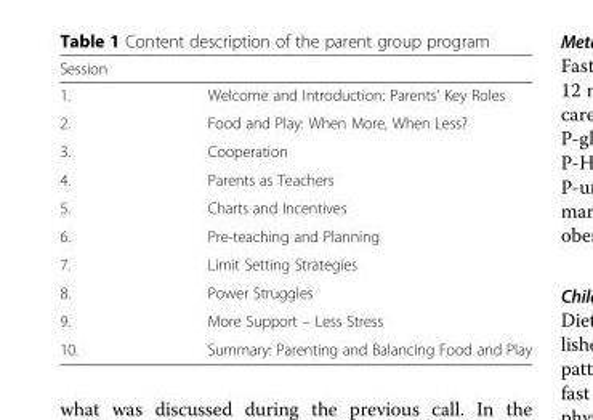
<table><thead><tr><td>Session</td><td></td></tr></thead><tbody><tr><td>1.</td><td>Welcome and Introduction: Parents’ Key Roles</td></tr><tr><td>2.</td><td>Food and Play: When More, When Less?</td></tr><tr><td>3.</td><td>Cooperation</td></tr><tr><td>4.</td><td>Parents as Teachers</td></tr><tr><td>5.</td><td>Charts and Incentives</td></tr><tr><td>6.</td><td>Pre-teaching and Planning</td></tr><tr><td>7.</td><td>Limit Setting Strategies</td></tr><tr><td>8.</td><td>Power Struggles</td></tr><tr><td>9.</td><td>More Support – Less Stress</td></tr><tr><td>10.</td><td>Summary: Parenting and Balancing Food and Play</td></tr></tbody></table>